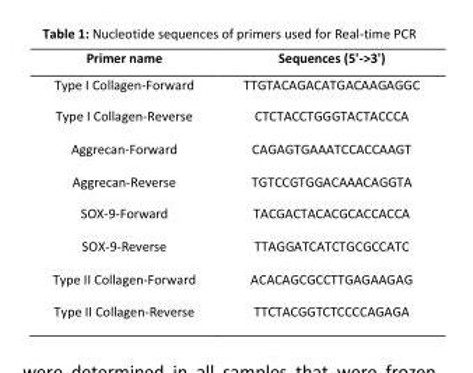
<table><thead><tr><td>Primer name</td><td>Sequences (5&#x27;-&gt;3&#x27;)</td></tr></thead><tbody><tr><td>Type I Collagen-Forward</td><td>TTGTACAGACATGACAAGAGGC</td></tr><tr><td>Type I Collagen-Reverse</td><td>CTCTACCTGGGTACTACCCA</td></tr><tr><td>Aggrecan-Forward</td><td>CAGAGTGAAATCCACCAAGT</td></tr><tr><td>Aggrecan-Reverse</td><td>TGTCCGTGGACAAACAGGTA</td></tr><tr><td>SOX-9-Forward</td><td>TACGACTACACGCACCACCA</td></tr><tr><td>SOX-9-Reverse</td><td>TTAGGATCATCTGCGCCATC</td></tr><tr><td>Type II Collagen-Forward</td><td>ACACAGCGCCTTGAGAAGAG</td></tr><tr><td>Type II Collagen-Reverse</td><td>TTCTACGGTCTCCCCAGAGA</td></tr></tbody></table>